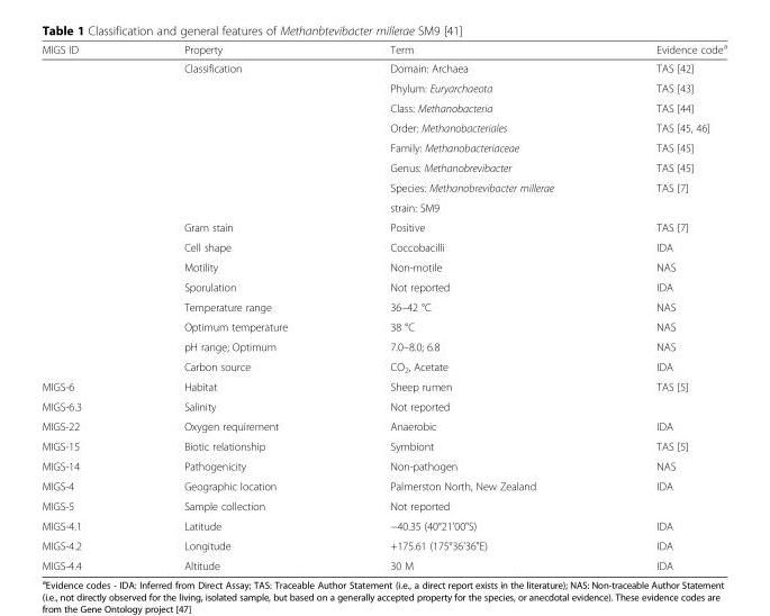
<table><thead><tr><td>MIGS ID</td><td>Property</td><td>Term</td><td>Evidence code<sup>a</sup></td></tr></thead><tbody><tr><td rowspan="16"></td><td rowspan="8">Classification</td><td>Domain: Archaea</td><td>TAS [42]</td></tr><tr><td>Phylum: Euryarchaeota</td><td>TAS [43]</td></tr><tr><td>Class: Methanobacteria</td><td>TAS [44]</td></tr><tr><td>Order: Methanobacteriales</td><td>TAS [45, 46]</td></tr><tr><td>Family: Methanobacteriaceae</td><td>TAS [45]</td></tr><tr><td>Genus: Methanobrevibacter</td><td>TAS [45]</td></tr><tr><td>Species: Methanobrevibacter millerae</td><td>TAS [7]</td></tr><tr><td>strain: SM9</td><td></td></tr><tr><td>Gram stain</td><td>Positive</td><td>TAS [7]</td></tr><tr><td>Cell shape</td><td>Coccobacilli</td><td>IDA</td></tr><tr><td>Motility</td><td>Non-motile</td><td>NAS</td></tr><tr><td>Sporulation</td><td>Not reported</td><td>IDA</td></tr><tr><td>Temperature range</td><td>36–42 °C</td><td>NAS</td></tr><tr><td>Optimum temperature</td><td>38 °C</td><td>NAS</td></tr><tr><td>pH range; Optimum</td><td>7.0–8.0; 6.8</td><td>NAS</td></tr><tr><td>Carbon source</td><td>CO<sub>2</sub>, Acetate</td><td>IDA</td></tr><tr><td>MIGS-6</td><td>Habitat</td><td>Sheep rumen</td><td>TAS [5]</td></tr><tr><td>MIGS-6.3</td><td>Salinity</td><td>Not reported</td><td></td></tr><tr><td>MIGS-22</td><td>Oxygen requirement</td><td>Anaerobic</td><td>IDA</td></tr><tr><td>MIGS-15</td><td>Biotic relationship</td><td>Symbiont</td><td>TAS [5]</td></tr><tr><td>MIGS-14</td><td>Pathogenicity</td><td>Non-pathogen</td><td>NAS</td></tr><tr><td>MIGS-4</td><td>Geographic location</td><td>Palmerston North, New Zealand</td><td>IDA</td></tr><tr><td>MIGS-5</td><td>Sample collection</td><td>Not reported</td><td></td></tr><tr><td>MIGS-4.1</td><td>Latitude</td><td>−40.35 (40°21&#x27;00&quot;S)</td><td>IDA</td></tr><tr><td>MIGS-4.2</td><td>Longitude</td><td>+175.61 (175°36&#x27;36&quot;E)</td><td>IDA</td></tr><tr><td>MIGS-4.4</td><td>Altitude</td><td>30 M</td><td>IDA</td></tr></tbody></table>